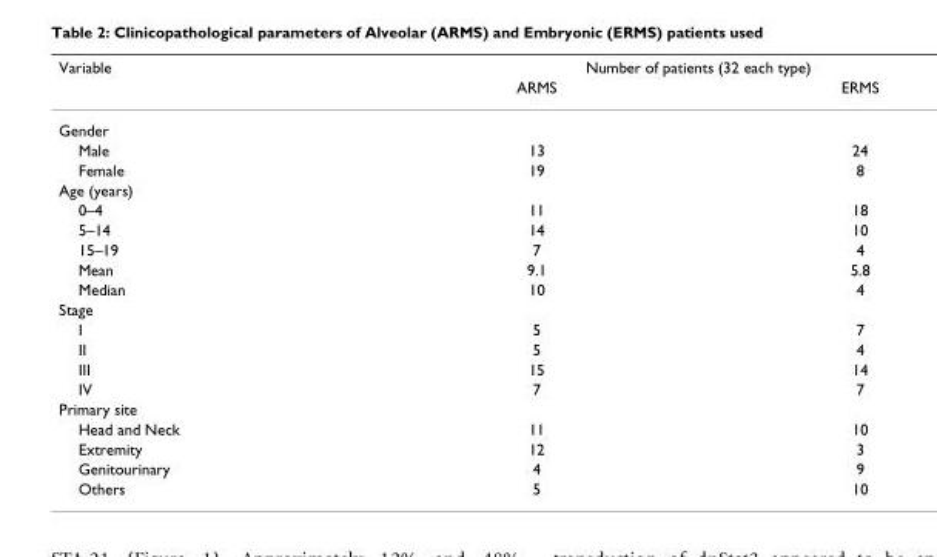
<table><thead><tr><td rowspan="2">Variable</td><td colspan="2">Number of patients (32 each type)</td></tr><tr><td>ARMS</td><td>ERMS</td></tr></thead><tbody><tr><td colspan="3">Gender</td></tr><tr><td>Male</td><td>13</td><td>24</td></tr><tr><td>Female</td><td>19</td><td>8</td></tr><tr><td colspan="3">Age (years)</td></tr><tr><td>0–4</td><td>11</td><td>18</td></tr><tr><td>5–14</td><td>14</td><td>10</td></tr><tr><td>15–19</td><td>7</td><td>4</td></tr><tr><td>Mean</td><td>9.1</td><td>5.8</td></tr><tr><td>Median</td><td>10</td><td>4</td></tr><tr><td colspan="3">Stage</td></tr><tr><td>I</td><td>5</td><td>7</td></tr><tr><td>II</td><td>5</td><td>4</td></tr><tr><td>III</td><td>15</td><td>14</td></tr><tr><td>IV</td><td>7</td><td>7</td></tr><tr><td colspan="3">Primary site</td></tr><tr><td>Head and Neck</td><td>11</td><td>10</td></tr><tr><td>Extremity</td><td>12</td><td>3</td></tr><tr><td>Genitourinary</td><td>4</td><td>9</td></tr><tr><td>Others</td><td>5</td><td>10</td></tr></tbody></table>